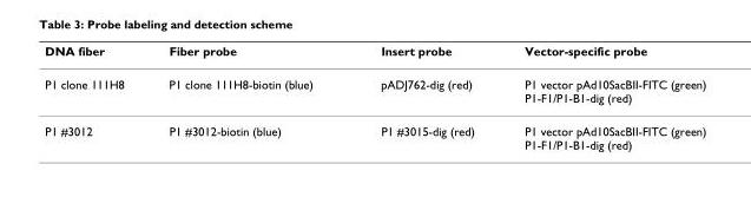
<table><thead><tr><td>DNA fiber</td><td>Fiber probe</td><td>Insert probe</td><td>Vector-specific probe</td></tr></thead><tbody><tr><td>P1 clone 111H8</td><td>P1 clone 111H8-biotin (blue)</td><td>pADJ762-dig (red)</td><td>P1 vector pAd10SacBII-FITC (green) P1-F1/P1-B1-dig (red)</td></tr><tr><td>P1 #3012</td><td>P1 #3012-biotin (blue)</td><td>P1 #3015-dig (red)</td><td>P1 vector pAd10SacBII-FITC (green) P1-F1/P1-B1-dig (red)</td></tr></tbody></table>